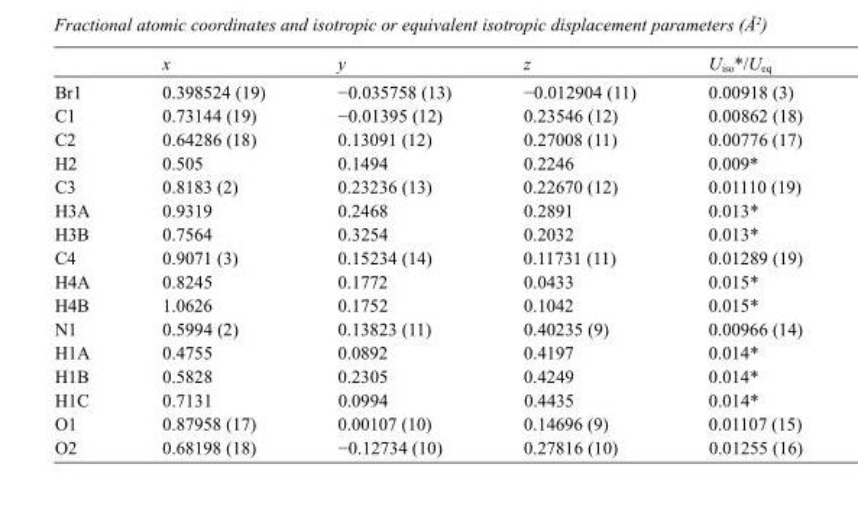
<table><thead><tr><td></td><td>x</td><td>y</td><td>z</td><td>U<sub>iso</sub>*/U<sub>eq</sub></td></tr></thead><tbody><tr><td>Br1</td><td>0.398524 (19)</td><td>−0.035758 (13)</td><td>−0.012904 (11)</td><td>0.00918 (3)</td></tr><tr><td>C1</td><td>0.73144 (19)</td><td>−0.01395 (12)</td><td>0.23546 (12)</td><td>0.00862 (18)</td></tr><tr><td>C2</td><td>0.64286 (18)</td><td>0.13091 (12)</td><td>0.27008 (11)</td><td>0.00776 (17)</td></tr><tr><td>H2</td><td>0.505</td><td>0.1494</td><td>0.2246</td><td>0.009*</td></tr><tr><td>C3</td><td>0.8183 (2)</td><td>0.23236 (13)</td><td>0.22670 (12)</td><td>0.01110 (19)</td></tr><tr><td>H3A</td><td>0.9319</td><td>0.2468</td><td>0.2891</td><td>0.013*</td></tr><tr><td>H3B</td><td>0.7564</td><td>0.3254</td><td>0.2032</td><td>0.013*</td></tr><tr><td>C4</td><td>0.9071 (3)</td><td>0.15234 (14)</td><td>0.11731 (11)</td><td>0.01289 (19)</td></tr><tr><td>H4A</td><td>0.8245</td><td>0.1772</td><td>0.0433</td><td>0.015*</td></tr><tr><td>H4B</td><td>1.0626</td><td>0.1752</td><td>0.1042</td><td>0.015*</td></tr><tr><td>N1</td><td>0.5994 (2)</td><td>0.13823 (11)</td><td>0.40235 (9)</td><td>0.00966 (14)</td></tr><tr><td>H1A</td><td>0.4755</td><td>0.0892</td><td>0.4197</td><td>0.014*</td></tr><tr><td>H1B</td><td>0.5828</td><td>0.2305</td><td>0.4249</td><td>0.014*</td></tr><tr><td>H1C</td><td>0.7131</td><td>0.0994</td><td>0.4435</td><td>0.014*</td></tr><tr><td>O1</td><td>0.87958 (17)</td><td>0.00107 (10)</td><td>0.14696 (9)</td><td>0.01107 (15)</td></tr><tr><td>O2</td><td>0.68198 (18)</td><td>−0.12734 (10)</td><td>0.27816 (10)</td><td>0.01255 (16)</td></tr></tbody></table>